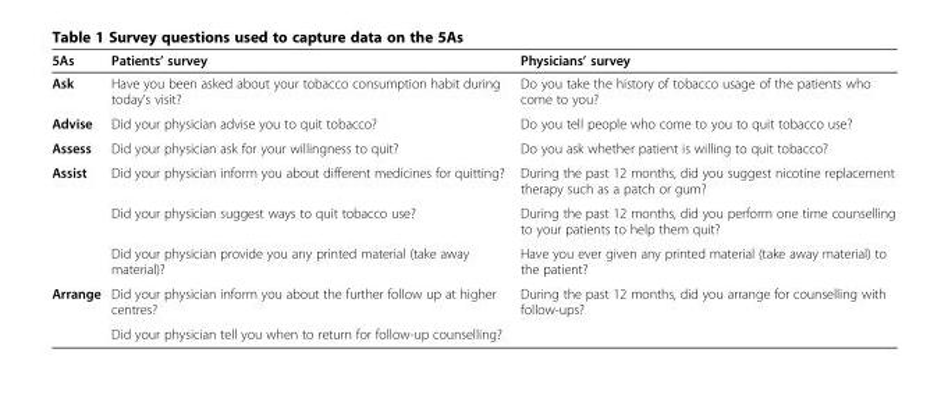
<table><thead><tr><td>5As</td><td>Patients’ survey</td><td>Physicians’ survey</td></tr></thead><tbody><tr><td>Ask</td><td>Have you been asked about your tobacco consumption habit during today’s visit?</td><td>Do you take the history of tobacco usage of the patients who come to you?</td></tr><tr><td>Advise</td><td>Did your physician advise you to quit tobacco?</td><td>Do you tell people who come to you to quit tobacco use?</td></tr><tr><td>Assess</td><td>Did your physician ask for your willingness to quit?</td><td>Do you ask whether patient is willing to quit tobacco?</td></tr><tr><td rowspan="3">Assist</td><td>Did your physician inform you about different medicines for quitting?</td><td>During the past 12 months, did you suggest nicotine replacement therapy such as a patch or gum?</td></tr><tr><td>Did your physician suggest ways to quit tobacco use?</td><td>During the past 12 months, did you perform one time counselling to your patients to help them quit?</td></tr><tr><td>Did your physician provide you any printed material (take away material)?</td><td>Have you ever given any printed material (take away material) to the patient?</td></tr><tr><td rowspan="2">Arrange</td><td>Did your physician inform you about the further follow up at higher centres?</td><td rowspan="2">During the past 12 months, did you arrange for counselling with follow-ups?</td></tr><tr><td>Did your physician tell you when to return for follow-up counselling?</td></tr></tbody></table>